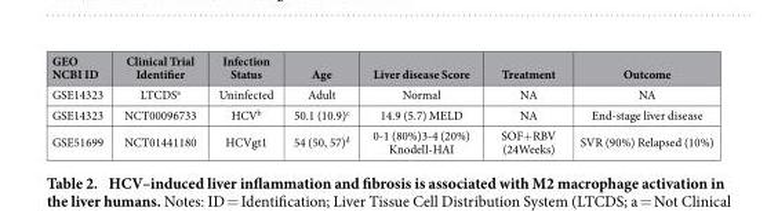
<table><thead><tr><td>GEO NCBI ID</td><td>Clinical Trial Identifier</td><td>Infection Status</td><td>Age</td><td>Liver disease Score</td><td>Treatment</td><td>Outcome</td></tr></thead><tbody><tr><td>GSE14323</td><td>LTCDS<sup>a</sup></td><td>Uninfected</td><td>Adult</td><td>Normal</td><td>NA</td><td>NA</td></tr><tr><td>GSE14323</td><td>NCT00096733</td><td>HCV<sup>b</sup></td><td>50.1 (10.9)<sup>c</sup></td><td>14.9 (5.7) MELD</td><td>NA</td><td>End-stage liver disease</td></tr><tr><td>GSE51699</td><td>NCT01441180</td><td>HCVgt1</td><td>54 (50, 57)<sup>d</sup></td><td>0-1 (80%)3-4 (20%) Knodell-HAI</td><td>SOF+ RBV (24Weeks)</td><td>SVR (90%) Relapsed (10%)</td></tr></tbody></table>